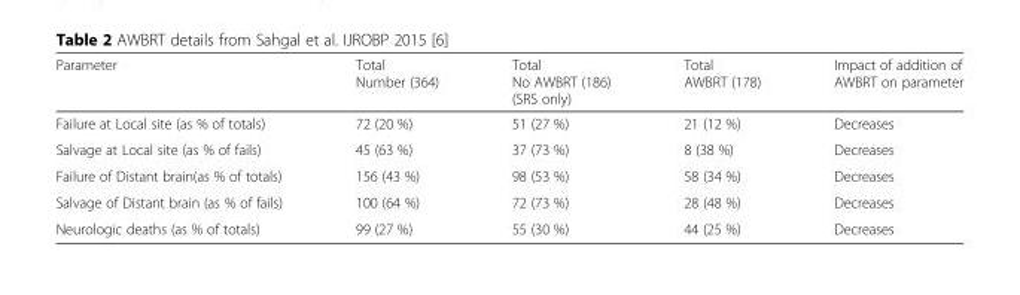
<table><thead><tr><td>Parameter</td><td>Total Number (364)</td><td>Total No AWBRT (186) (SRS only)</td><td>Total AWBRT (178)</td><td>Impact of addition of AWBRT on parameter</td></tr></thead><tbody><tr><td>Failure at Local site (as % of totals)</td><td>72 (20 %)</td><td>51 (27 %)</td><td>21 (12 %)</td><td>Decreases</td></tr><tr><td>Salvage at Local site (as % of fails)</td><td>45 (63 %)</td><td>37 (73 %)</td><td>8 (38 %)</td><td>Decreases</td></tr><tr><td>Failure of Distant brain(as % of totals)</td><td>156 (43 %)</td><td>98 (53 %)</td><td>58 (34 %)</td><td>Decreases</td></tr><tr><td>Salvage of Distant brain (as % of fails)</td><td>100 (64 %)</td><td>72 (73 %)</td><td>28 (48 %)</td><td>Decreases</td></tr><tr><td>Neurologic deaths (as % of totals)</td><td>99 (27 %)</td><td>55 (30 %)</td><td>44 (25 %)</td><td>Decreases</td></tr></tbody></table>